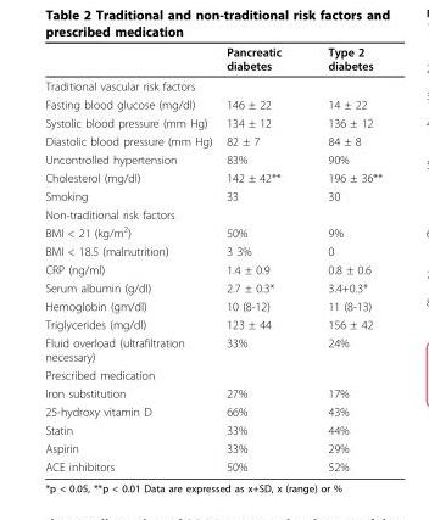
<table><thead><tr><td></td><td>Pancreatic diabetes</td><td>Type 2 diabetes</td></tr></thead><tbody><tr><td colspan="3">Traditional vascular risk factors</td></tr><tr><td>Fasting blood glucose (mg/dl)</td><td>146 ± 22</td><td>14 ± 22</td></tr><tr><td>Systolic blood pressure (mm Hg)</td><td>134 ± 12</td><td>136 ± 12</td></tr><tr><td>Diastolic blood pressure (mm Hg)</td><td>82 ± 7</td><td>84 ± 8</td></tr><tr><td>Uncontrolled hypertension</td><td>83%</td><td>90%</td></tr><tr><td>Cholesterol (mg/dl)</td><td>142 ± 42**</td><td>196 ± 36**</td></tr><tr><td>Smoking</td><td>33</td><td>30</td></tr><tr><td colspan="3">Non-traditional risk factors</td></tr><tr><td>BMI &lt; 21 (kg/m<sup>2</sup>)</td><td>50%</td><td>9%</td></tr><tr><td>BMI &lt; 18.5 (malnutrition)</td><td>3 3%</td><td>0</td></tr><tr><td>CRP (ng/ml)</td><td>1.4 ± 0.9</td><td>0.8 ± 0.6</td></tr><tr><td>Serum albumin (g/dl)</td><td>2.7 ± 0.3*</td><td>3.4+0.3*</td></tr><tr><td>Hemoglobin (gm/dl)</td><td>10 (8-12)</td><td>11 (8-13)</td></tr><tr><td>Triglycerides (mg/dl)</td><td>123 ± 44</td><td>156 ± 42</td></tr><tr><td>Fluid overload (ultrafiltration necessary)</td><td>33%</td><td>24%</td></tr><tr><td colspan="3">Prescribed medication</td></tr><tr><td>Iron substitution</td><td>27%</td><td>17%</td></tr><tr><td>25-hydroxy vitamin D</td><td>66%</td><td>43%</td></tr><tr><td>Statin</td><td>33%</td><td>44%</td></tr><tr><td>Aspirin</td><td>33%</td><td>29%</td></tr><tr><td>ACE inhibitors</td><td>50%</td><td>52%</td></tr></tbody></table>